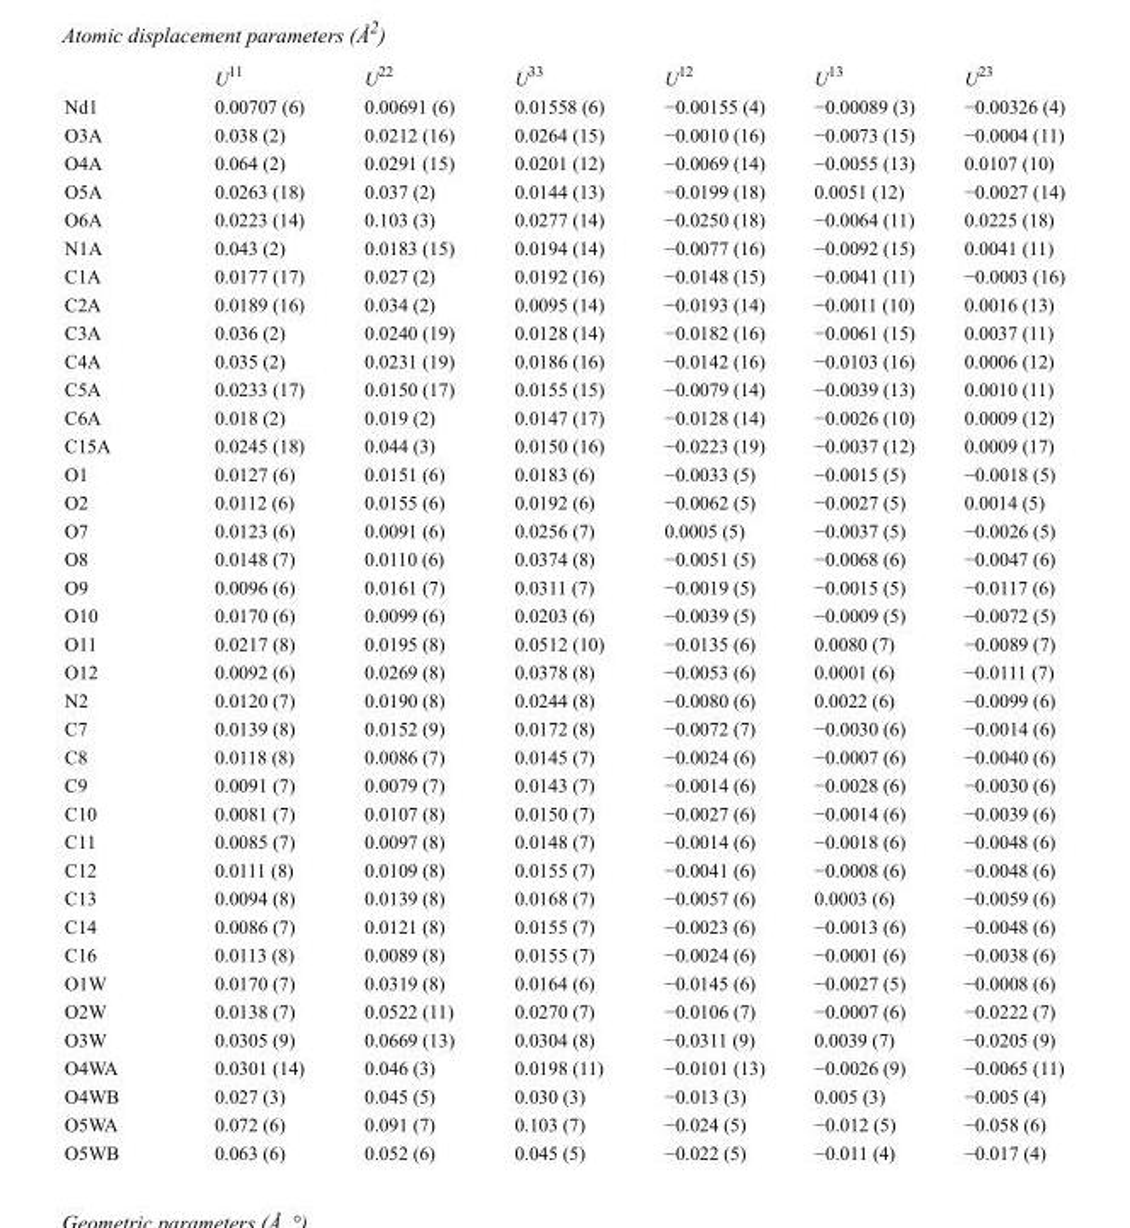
<table><thead><tr><td></td><td>U<sup>11</sup></td><td>U<sup>22</sup></td><td>U<sup>33</sup></td><td>U<sup>12</sup></td><td>U<sup>13</sup></td><td>U<sup>23</sup></td></tr></thead><tbody><tr><td>Nd1</td><td>0.00707 (6)</td><td>0.00691 (6)</td><td>0.01558 (6)</td><td>−0.00155 (4)</td><td>−0.00089 (3)</td><td>−0.00326 (4)</td></tr><tr><td>O3A</td><td>0.038 (2)</td><td>0.0212 (16)</td><td>0.0264 (15)</td><td>−0.0010 (16)</td><td>−0.0073 (15)</td><td>−0.0004 (11)</td></tr><tr><td>O4A</td><td>0.064 (2)</td><td>0.0291 (15)</td><td>0.0201 (12)</td><td>−0.0069 (14)</td><td>−0.0055 (13)</td><td>0.0107 (10)</td></tr><tr><td>O5A</td><td>0.0263 (18)</td><td>0.037 (2)</td><td>0.0144 (13)</td><td>−0.0199 (18)</td><td>0.0051 (12)</td><td>−0.0027 (14)</td></tr><tr><td>O6A</td><td>0.0223 (14)</td><td>0.103 (3)</td><td>0.0277 (14)</td><td>−0.0250 (18)</td><td>−0.0064 (11)</td><td>0.0225 (18)</td></tr><tr><td>N1A</td><td>0.043 (2)</td><td>0.0183 (15)</td><td>0.0194 (14)</td><td>−0.0077 (16)</td><td>−0.0092 (15)</td><td>0.0041 (11)</td></tr><tr><td>C1A</td><td>0.0177 (17)</td><td>0.027 (2)</td><td>0.0192 (16)</td><td>−0.0148 (15)</td><td>−0.0041 (11)</td><td>−0.0003 (16)</td></tr><tr><td>C2A</td><td>0.0189 (16)</td><td>0.034 (2)</td><td>0.0095 (14)</td><td>−0.0193 (14)</td><td>−0.0011 (10)</td><td>0.0016 (13)</td></tr><tr><td>C3A</td><td>0.036 (2)</td><td>0.0240 (19)</td><td>0.0128 (14)</td><td>−0.0182 (16)</td><td>−0.0061 (15)</td><td>0.0037 (11)</td></tr><tr><td>C4A</td><td>0.035 (2)</td><td>0.0231 (19)</td><td>0.0186 (16)</td><td>−0.0142 (16)</td><td>−0.0103 (16)</td><td>0.0006 (12)</td></tr><tr><td>C5A</td><td>0.0233 (17)</td><td>0.0150 (17)</td><td>0.0155 (15)</td><td>−0.0079 (14)</td><td>−0.0039 (13)</td><td>0.0010 (11)</td></tr><tr><td>C6A</td><td>0.018 (2)</td><td>0.019 (2)</td><td>0.0147 (17)</td><td>−0.0128 (14)</td><td>−0.0026 (10)</td><td>0.0009 (12)</td></tr><tr><td>C15A</td><td>0.0245 (18)</td><td>0.044 (3)</td><td>0.0150 (16)</td><td>−0.0223 (19)</td><td>−0.0037 (12)</td><td>0.0009 (17)</td></tr><tr><td>O1</td><td>0.0127 (6)</td><td>0.0151 (6)</td><td>0.0183 (6)</td><td>−0.0033 (5)</td><td>−0.0015 (5)</td><td>−0.0018 (5)</td></tr><tr><td>O2</td><td>0.0112 (6)</td><td>0.0155 (6)</td><td>0.0192 (6)</td><td>−0.0062 (5)</td><td>−0.0027 (5)</td><td>0.0014 (5)</td></tr><tr><td>O7</td><td>0.0123 (6)</td><td>0.0091 (6)</td><td>0.0256 (7)</td><td>0.0005 (5)</td><td>−0.0037 (5)</td><td>−0.0026 (5)</td></tr><tr><td>O8</td><td>0.0148 (7)</td><td>0.0110 (6)</td><td>0.0374 (8)</td><td>−0.0051 (5)</td><td>−0.0068 (6)</td><td>−0.0047 (6)</td></tr><tr><td>O9</td><td>0.0096 (6)</td><td>0.0161 (7)</td><td>0.0311 (7)</td><td>−0.0019 (5)</td><td>−0.0015 (5)</td><td>−0.0117 (6)</td></tr><tr><td>O10</td><td>0.0170 (6)</td><td>0.0099 (6)</td><td>0.0203 (6)</td><td>−0.0039 (5)</td><td>−0.0009 (5)</td><td>−0.0072 (5)</td></tr><tr><td>O11</td><td>0.0217 (8)</td><td>0.0195 (8)</td><td>0.0512 (10)</td><td>−0.0135 (6)</td><td>0.0080 (7)</td><td>−0.0089 (7)</td></tr><tr><td>O12</td><td>0.0092 (6)</td><td>0.0269 (8)</td><td>0.0378 (8)</td><td>−0.0053 (6)</td><td>0.0001 (6)</td><td>−0.0111 (7)</td></tr><tr><td>N2</td><td>0.0120 (7)</td><td>0.0190 (8)</td><td>0.0244 (8)</td><td>−0.0080 (6)</td><td>0.0022 (6)</td><td>−0.0099 (6)</td></tr><tr><td>C7</td><td>0.0139 (8)</td><td>0.0152 (9)</td><td>0.0172 (8)</td><td>−0.0072 (7)</td><td>−0.0030 (6)</td><td>−0.0014 (6)</td></tr><tr><td>C8</td><td>0.0118 (8)</td><td>0.0086 (7)</td><td>0.0145 (7)</td><td>−0.0024 (6)</td><td>−0.0007 (6)</td><td>−0.0040 (6)</td></tr><tr><td>C9</td><td>0.0091 (7)</td><td>0.0079 (7)</td><td>0.0143 (7)</td><td>−0.0014 (6)</td><td>−0.0028 (6)</td><td>−0.0030 (6)</td></tr><tr><td>C10</td><td>0.0081 (7)</td><td>0.0107 (8)</td><td>0.0150 (7)</td><td>−0.0027 (6)</td><td>−0.0014 (6)</td><td>−0.0039 (6)</td></tr><tr><td>C11</td><td>0.0085 (7)</td><td>0.0097 (8)</td><td>0.0148 (7)</td><td>−0.0014 (6)</td><td>−0.0018 (6)</td><td>−0.0048 (6)</td></tr><tr><td>C12</td><td>0.0111 (8)</td><td>0.0109 (8)</td><td>0.0155 (7)</td><td>−0.0041 (6)</td><td>−0.0008 (6)</td><td>−0.0048 (6)</td></tr><tr><td>C13</td><td>0.0094 (8)</td><td>0.0139 (8)</td><td>0.0168 (7)</td><td>−0.0057 (6)</td><td>0.0003 (6)</td><td>−0.0059 (6)</td></tr><tr><td>C14</td><td>0.0086 (7)</td><td>0.0121 (8)</td><td>0.0155 (7)</td><td>−0.0023 (6)</td><td>−0.0013 (6)</td><td>−0.0048 (6)</td></tr><tr><td>C16</td><td>0.0113 (8)</td><td>0.0089 (8)</td><td>0.0155 (7)</td><td>−0.0024 (6)</td><td>−0.0001 (6)</td><td>−0.0038 (6)</td></tr><tr><td>O1W</td><td>0.0170 (7)</td><td>0.0319 (8)</td><td>0.0164 (6)</td><td>−0.0145 (6)</td><td>−0.0027 (5)</td><td>−0.0008 (6)</td></tr><tr><td>O2W</td><td>0.0138 (7)</td><td>0.0522 (11)</td><td>0.0270 (7)</td><td>−0.0106 (7)</td><td>−0.0007 (6)</td><td>−0.0222 (7)</td></tr><tr><td>O3W</td><td>0.0305 (9)</td><td>0.0669 (13)</td><td>0.0304 (8)</td><td>−0.0311 (9)</td><td>0.0039 (7)</td><td>−0.0205 (9)</td></tr><tr><td>O4WA</td><td>0.0301 (14)</td><td>0.046 (3)</td><td>0.0198 (11)</td><td>−0.0101 (13)</td><td>−0.0026 (9)</td><td>−0.0065 (11)</td></tr><tr><td>O4WB</td><td>0.027 (3)</td><td>0.045 (5)</td><td>0.030 (3)</td><td>−0.013 (3)</td><td>0.005 (3)</td><td>−0.005 (4)</td></tr><tr><td>O5WA</td><td>0.072 (6)</td><td>0.091 (7)</td><td>0.103 (7)</td><td>−0.024 (5)</td><td>−0.012 (5)</td><td>−0.058 (6)</td></tr><tr><td>O5WB</td><td>0.063 (6)</td><td>0.052 (6)</td><td>0.045 (5)</td><td>−0.022 (5)</td><td>−0.011 (4)</td><td>−0.017 (4)</td></tr></tbody></table>